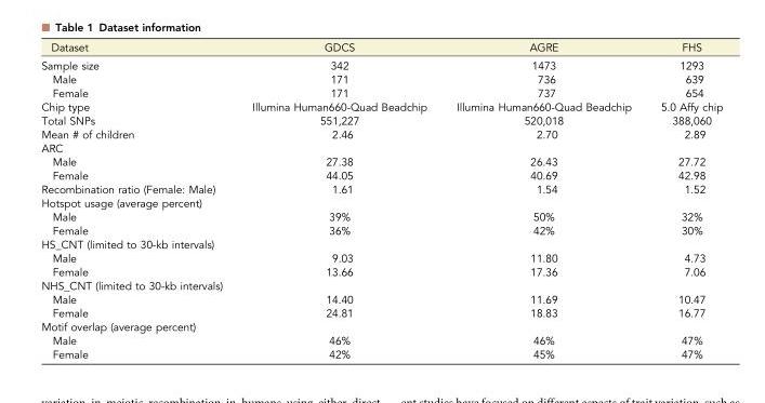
<table><thead><tr><td>Dataset</td><td>GDCS</td><td>AGRE</td><td>FHS</td></tr></thead><tbody><tr><td>Sample size</td><td>342</td><td>1473</td><td>1293</td></tr><tr><td>Male</td><td>171</td><td>736</td><td>639</td></tr><tr><td>Female</td><td>171</td><td>737</td><td>654</td></tr><tr><td>Chip type</td><td>Illumina Human660-Quad Beadchip</td><td>Illumina Human660-Quad Beadchip</td><td>5.0 Affy chip</td></tr><tr><td>Total SNPs</td><td>551,227</td><td>520,018</td><td>388,060</td></tr><tr><td>Mean # of children</td><td>2.46</td><td>2.70</td><td>2.89</td></tr><tr><td colspan="4">ARC</td></tr><tr><td>Male</td><td>27.38</td><td>26.43</td><td>27.72</td></tr><tr><td>Female</td><td>44.05</td><td>40.69</td><td>42.98</td></tr><tr><td>Recombination ratio (Female: Male)</td><td>1.61</td><td>1.54</td><td>1.52</td></tr><tr><td colspan="4">Hotspot usage (average percent)</td></tr><tr><td>Male</td><td>39%</td><td>50%</td><td>32%</td></tr><tr><td>Female</td><td>36%</td><td>42%</td><td>30%</td></tr><tr><td colspan="4">HS_CNT (limited to 30-kb intervals)</td></tr><tr><td>Male</td><td>9.03</td><td>11.80</td><td>4.73</td></tr><tr><td>Female</td><td>13.66</td><td>17.36</td><td>7.06</td></tr><tr><td colspan="4">NHS_CNT (limited to 30-kb intervals)</td></tr><tr><td>Male</td><td>14.40</td><td>11.69</td><td>10.47</td></tr><tr><td>Female</td><td>24.81</td><td>18.83</td><td>16.77</td></tr><tr><td colspan="4">Motif overlap (average percent)</td></tr><tr><td>Male</td><td>46%</td><td>46%</td><td>47%</td></tr><tr><td>Female</td><td>42%</td><td>45%</td><td>47%</td></tr></tbody></table>